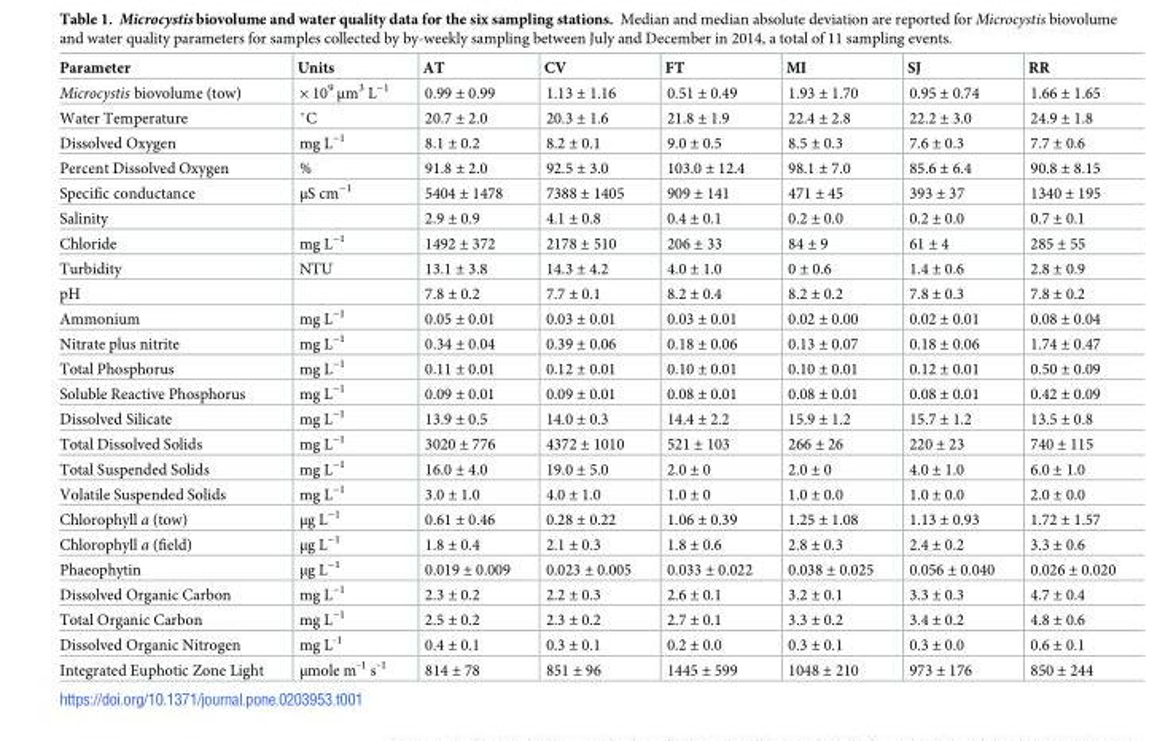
<table><thead><tr><td>Parameter</td><td>Units</td><td>AT</td><td>CV</td><td>FT</td><td>MI</td><td>SJ</td><td>RR</td></tr></thead><tbody><tr><td>Microcystis biovolume (tow)</td><td>× 10<sup>9</sup> μm<sup>3</sup> L<sup>−1</sup></td><td>0.99 ± 0.99</td><td>1.13 ± 1.16</td><td>0.51 ± 0.49</td><td>1.93 ± 1.70</td><td>0.95 ± 0.74</td><td>1.66 ± 1.65</td></tr><tr><td>Water Temperature</td><td>˚C</td><td>20.7 ± 2.0</td><td>20.3 ± 1.6</td><td>21.8 ± 1.9</td><td>22.4 ± 2.8</td><td>22.2 ± 3.0</td><td>24.9 ± 1.8</td></tr><tr><td>Dissolved Oxygen</td><td>mg L<sup>−1</sup></td><td>8.1 ± 0.2</td><td>8.2 ± 0.1</td><td>9.0 ± 0.5</td><td>8.5 ± 0.3</td><td>7.6 ± 0.3</td><td>7.7 ± 0.6</td></tr><tr><td>Percent Dissolved Oxygen</td><td>%</td><td>91.8 ± 2.0</td><td>92.5 ± 3.0</td><td>103.0 ± 12.4</td><td>98.1 ± 7.0</td><td>85.6 ± 6.4</td><td>90.8 ± 8.15</td></tr><tr><td>Specific conductance</td><td>μS cm<sup>−1</sup></td><td>5404 ± 1478</td><td>7388 ± 1405</td><td>909 ± 141</td><td>471 ± 45</td><td>393 ± 37</td><td>1340 ± 195</td></tr><tr><td>Salinity</td><td></td><td>2.9 ± 0.9</td><td>4.1 ± 0.8</td><td>0.4 ± 0.1</td><td>0.2 ± 0.0</td><td>0.2 ± 0.0</td><td>0.7 ± 0.1</td></tr><tr><td>Chloride</td><td>mg L<sup>−1</sup></td><td>1492 ± 372</td><td>2178 ± 510</td><td>206 ± 33</td><td>84 ± 9</td><td>61 ± 4</td><td>285 ± 55</td></tr><tr><td>Turbidity</td><td>NTU</td><td>13.1 ± 3.8</td><td>14.3 ± 4.2</td><td>4.0 ± 1.0</td><td>0 ± 0.6</td><td>1.4 ± 0.6</td><td>2.8 ± 0.9</td></tr><tr><td>pH</td><td></td><td>7.8 ± 0.2</td><td>7.7 ± 0.1</td><td>8.2 ± 0.4</td><td>8.2 ± 0.2</td><td>7.8 ± 0.3</td><td>7.8 ± 0.2</td></tr><tr><td>Ammonium</td><td>mg L<sup>−1</sup></td><td>0.05 ± 0.01</td><td>0.03 ± 0.01</td><td>0.03 ± 0.01</td><td>0.02 ± 0.00</td><td>0.02 ± 0.01</td><td>0.08 ± 0.04</td></tr><tr><td>Nitrate plus nitrite</td><td>mg L<sup>−1</sup></td><td>0.34 ± 0.04</td><td>0.39 ± 0.06</td><td>0.18 ± 0.06</td><td>0.13 ± 0.07</td><td>0.18 ± 0.06</td><td>1.74 ± 0.47</td></tr><tr><td>Total Phosphorus</td><td>mg L<sup>−1</sup></td><td>0.11 ± 0.01</td><td>0.12 ± 0.01</td><td>0.10 ± 0.01</td><td>0.10 ± 0.01</td><td>0.12 ± 0.01</td><td>0.50 ± 0.09</td></tr><tr><td>Soluble Reactive Phosphorus</td><td>mg L<sup>−1</sup></td><td>0.09 ± 0.01</td><td>0.09 ± 0.01</td><td>0.08 ± 0.01</td><td>0.08 ± 0.01</td><td>0.08 ± 0.01</td><td>0.42 ± 0.09</td></tr><tr><td>Dissolved Silicate</td><td>mg L<sup>−1</sup></td><td>13.9 ± 0.5</td><td>14.0 ± 0.3</td><td>14.4 ± 2.2</td><td>15.9 ± 1.2</td><td>15.7 ± 1.2</td><td>13.5 ± 0.8</td></tr><tr><td>Total Dissolved Solids</td><td>mg L<sup>−1</sup></td><td>3020 ± 776</td><td>4372 ± 1010</td><td>521 ± 103</td><td>266 ± 26</td><td>220 ± 23</td><td>740 ± 115</td></tr><tr><td>Total Suspended Solids</td><td>mg L<sup>−1</sup></td><td>16.0 ± 4.0</td><td>19.0 ± 5.0</td><td>2.0 ± 0</td><td>2.0 ± 0</td><td>4.0 ± 1.0</td><td>6.0 ± 1.0</td></tr><tr><td>Volatile Suspended Solids</td><td>mg L<sup>−1</sup></td><td>3.0 ± 1.0</td><td>4.0 ± 1.0</td><td>1.0 ± 0</td><td>1.0 ± 0.0</td><td>1.0 ± 0.0</td><td>2.0 ± 0.0</td></tr><tr><td>Chlorophyll a (tow)</td><td>μg L<sup>−1</sup></td><td>0.61 ± 0.46</td><td>0.28 ± 0.22</td><td>1.06 ± 0.39</td><td>1.25 ± 1.08</td><td>1.13 ± 0.93</td><td>1.72 ± 1.57</td></tr><tr><td>Chlorophyll a (field)</td><td>μg L<sup>−1</sup></td><td>1.8 ± 0.4</td><td>2.1 ± 0.3</td><td>1.8 ± 0.6</td><td>2.8 ± 0.3</td><td>2.4 ± 0.2</td><td>3.3 ± 0.6</td></tr><tr><td>Phaeophytin</td><td>μg L<sup>−1</sup></td><td>0.019 ± 0.009</td><td>0.023 ± 0.005</td><td>0.033 ± 0.022</td><td>0.038 ± 0.025</td><td>0.056 ± 0.040</td><td>0.026 ± 0.020</td></tr><tr><td>Dissolved Organic Carbon</td><td>mg L<sup>−1</sup></td><td>2.3 ± 0.2</td><td>2.2 ± 0.3</td><td>2.6 ± 0.1</td><td>3.2 ± 0.1</td><td>3.3 ± 0.3</td><td>4.7 ± 0.4</td></tr><tr><td>Total Organic Carbon</td><td>mg L<sup>−1</sup></td><td>2.5 ± 0.2</td><td>2.3 ± 0.2</td><td>2.7 ± 0.1</td><td>3.3 ± 0.2</td><td>3.4 ± 0.2</td><td>4.8 ± 0.6</td></tr><tr><td>Dissolved Organic Nitrogen</td><td>mg L<sup>-1</sup></td><td>0.4 ± 0.1</td><td>0.3 ± 0.1</td><td>0.2 ± 0.0</td><td>0.3 ± 0.1</td><td>0.3 ± 0.0</td><td>0.6 ± 0.1</td></tr><tr><td>Integrated Euphotic Zone Light</td><td>μmole m<sup>-1</sup> s<sup>-1</sup></td><td>814 ± 78</td><td>851 ± 96</td><td>1445 ± 599</td><td>1048 ± 210</td><td>973 ± 176</td><td>850 ± 244</td></tr></tbody></table>